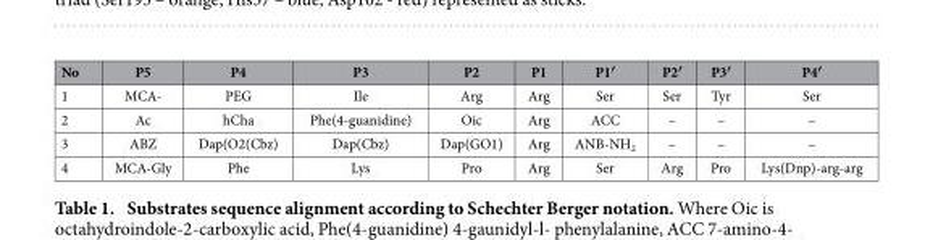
<table><thead><tr><td>No</td><td>P5</td><td>P4</td><td>P3</td><td>P2</td><td>P1</td><td>P1′</td><td>P2′</td><td>P3′</td><td>P4′</td></tr></thead><tbody><tr><td>1</td><td>MCA-</td><td>PEG</td><td>Ile</td><td>Arg</td><td>Arg</td><td>Ser</td><td>Ser</td><td>Tyr</td><td>Ser</td></tr><tr><td>2</td><td>Ac</td><td>hCha</td><td>Phe(4-guanidine)</td><td>Oic</td><td>Arg</td><td>ACC</td><td>–</td><td>–</td><td>–</td></tr><tr><td>3</td><td>ABZ</td><td>Dap(O2(Cbz)</td><td>Dap(Cbz)</td><td>Dap(GO1)</td><td>Arg</td><td>ANB-NH<sub>2</sub></td><td>–</td><td>–</td><td>–</td></tr><tr><td>4</td><td>MCA-Gly</td><td>Phe</td><td>Lys</td><td>Pro</td><td>Arg</td><td>Ser</td><td>Arg</td><td>Pro</td><td>Lys(Dnp)-arg-arg</td></tr></tbody></table>